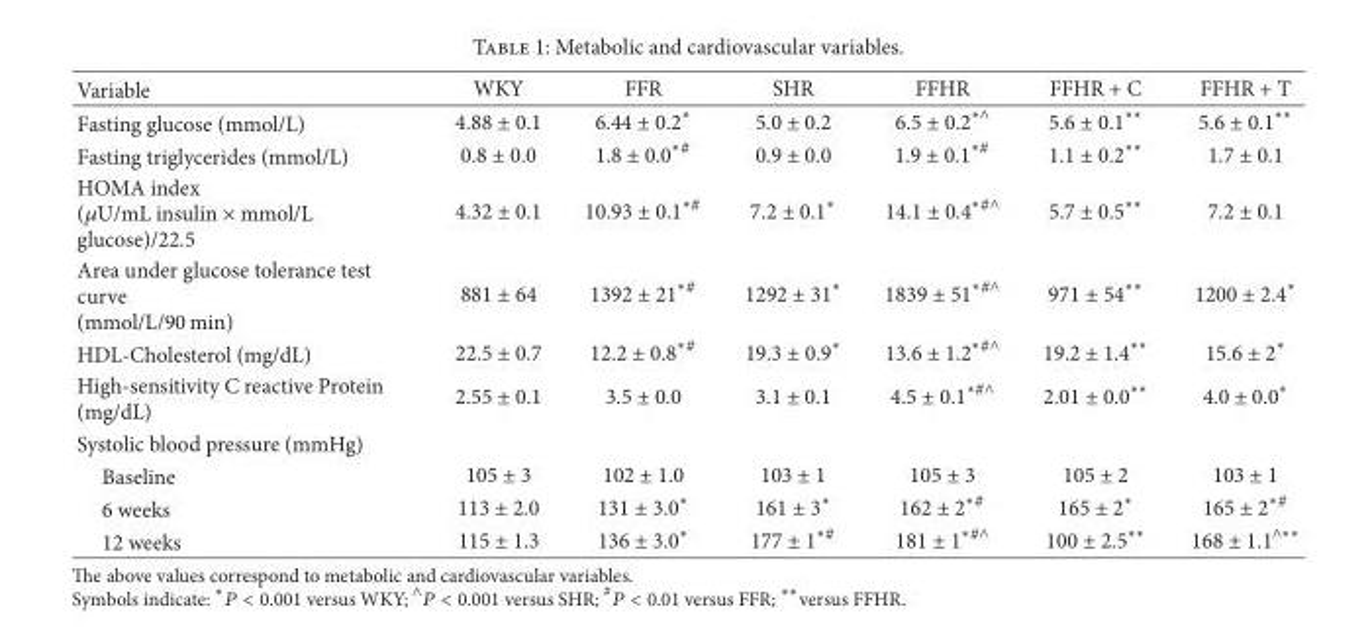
<table><thead><tr><td>Variable</td><td>WKY</td><td>FFR</td><td>SHR</td><td>FFHR</td><td>FFHR + C</td><td>FFHR + T</td></tr></thead><tbody><tr><td>Fasting glucose (mmol/L)</td><td>4.88 ± 0.1</td><td>6.44 ± 0.2∗</td><td>5.0 ± 0.2</td><td>6.5 ± 0.2<sup>∗∧</sup></td><td>5.6 ± 0.1∗∗</td><td>5.6 ± 0.1∗∗</td></tr><tr><td>Fasting triglycerides (mmol/L)</td><td>0.8 ± 0.0</td><td>1.8 ± 0.0<sup>∗#</sup></td><td>0.9 ± 0.0</td><td>1.9 ± 0.1<sup>∗#</sup></td><td>1.1 ± 0.2∗∗</td><td>1.7 ± 0.1</td></tr><tr><td>HOMA index (𝜇𝜇U/mL insulin × mmol/L glucose)/22.5</td><td>4.32 ± 0.1</td><td>10.93 ± 0.1<sup>∗#</sup></td><td>7.2 ± 0.1∗</td><td>14.1 ± 0.4<sup>∗#∧</sup></td><td>5.7 ± 0.5∗∗</td><td>7.2 ± 0.1</td></tr><tr><td>Area under glucose tolerance test curve (mmol/L/90 min)</td><td>881 ± 64</td><td>1392 ± 21<sup>∗#</sup></td><td>1292 ± 31∗</td><td>1839 ± 51<sup>∗#∧</sup></td><td>971 ± 54∗∗</td><td>1200 ± 2.4∗</td></tr><tr><td>HDL-Cholesterol (mg/dL)</td><td>22.5 ± 0.7</td><td>12.2 ± 0.8<sup>∗#</sup></td><td>19.3 ± 0.9∗</td><td>13.6 ± 1.2<sup>∗#∧</sup></td><td>19.2 ± 1.4∗∗</td><td>15.6 ± 2∗</td></tr><tr><td>High-sensitivity C reactive Protein (mg/dL)</td><td>2.55 ± 0.1</td><td>3.5 ± 0.0</td><td>3.1 ± 0.1</td><td>4.5 ± 0.1<sup>∗#∧</sup></td><td>2.01 ± 0.0∗∗</td><td>4.0 ± 0.0∗</td></tr><tr><td colspan="7">Systolic blood pressure (mmHg)</td></tr><tr><td>Baseline</td><td>105 ± 3</td><td>102 ± 1.0</td><td>103 ± 1</td><td>105 ± 3</td><td>105 ± 2</td><td>103 ± 1</td></tr><tr><td>6 weeks</td><td>113 ± 2.0</td><td>131 ± 3.0∗</td><td>161 ± 3∗</td><td>162 ± 2<sup>∗#</sup></td><td>165 ± 2∗</td><td>165 ± 2<sup>∗#</sup></td></tr><tr><td>12 weeks</td><td>115 ± 1.3</td><td>136 ± 3.0∗</td><td>177 ± 1<sup>∗#</sup></td><td>181 ± 1<sup>∗#∧</sup></td><td>100 ± 2.5∗∗</td><td>168 ± 1.1<sup>∧∗∗</sup></td></tr></tbody></table>